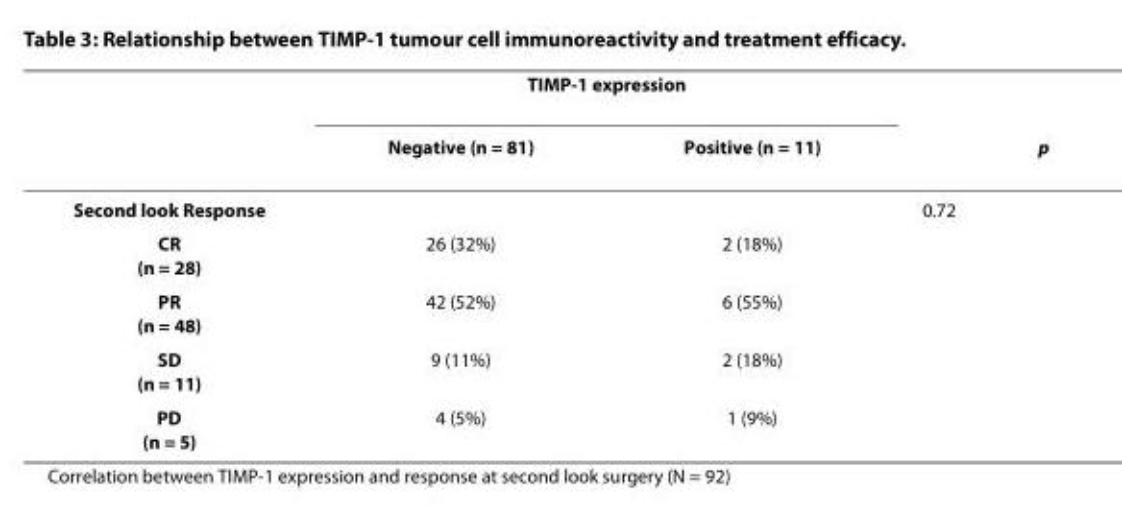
<table><thead><tr><td rowspan="2"></td><td colspan="2">TIMP-1 expression</td><td rowspan="2">p</td></tr><tr><td>Negative (n = 81)</td><td>Positive (n = 11)</td></tr></thead><tbody><tr><td>Second look Response</td><td></td><td></td><td>0.72</td></tr><tr><td>CR (n = 28)</td><td>26 (32%)</td><td>2 (18%)</td><td></td></tr><tr><td>PR (n = 48)</td><td>42 (52%)</td><td>6 (55%)</td><td></td></tr><tr><td>SD (n = 11)</td><td>9 (11%)</td><td>2 (18%)</td><td></td></tr><tr><td>PD (n = 5)</td><td>4 (5%)</td><td>1 (9%)</td><td></td></tr></tbody></table>